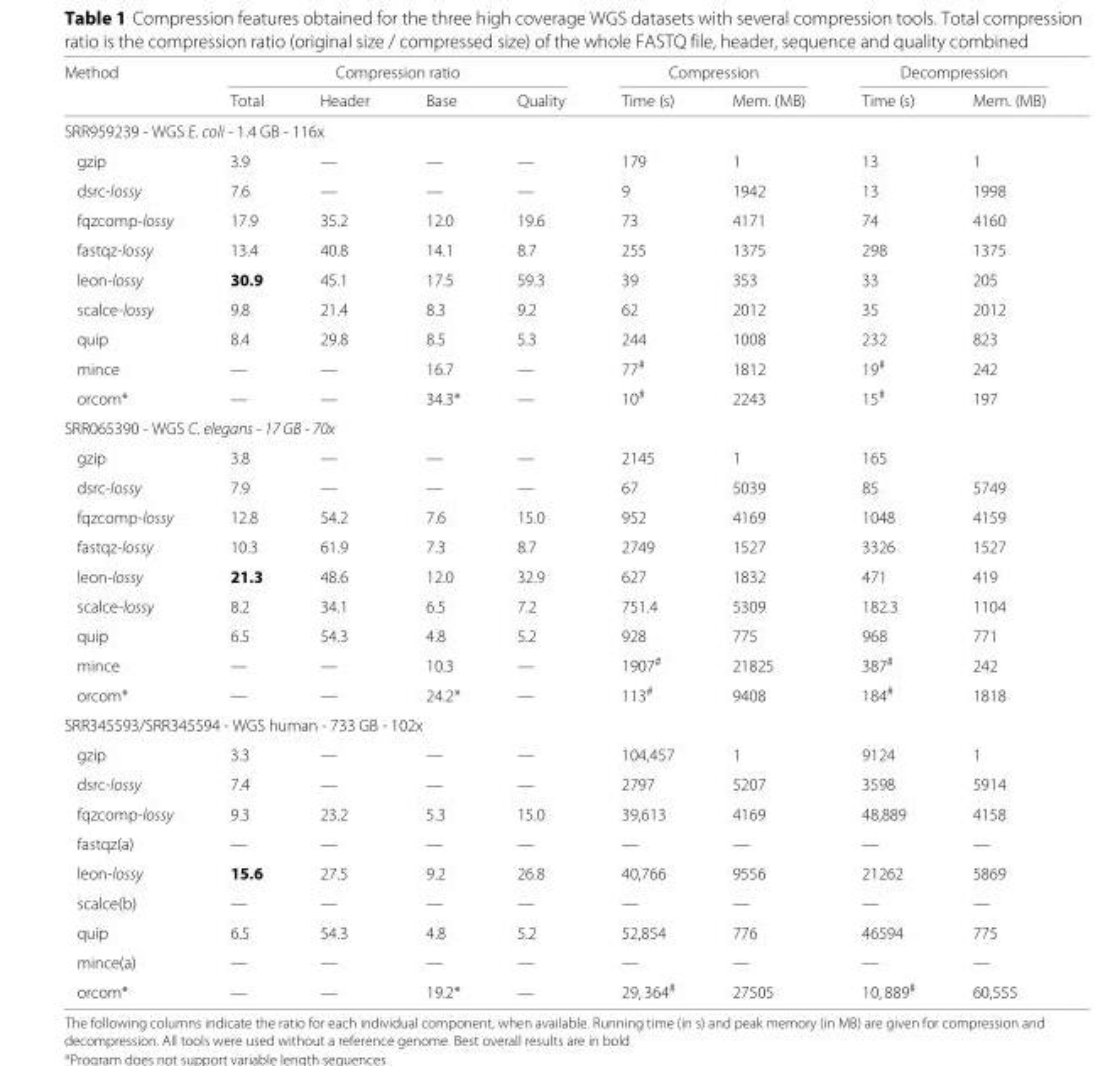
<table><thead><tr><td rowspan="2">Method</td><td colspan="4">Compression ratio</td><td colspan="2">Compression</td><td colspan="2">Decompression</td></tr><tr><td>Total</td><td>Header</td><td>Base</td><td>Quality</td><td>Time (s)</td><td>Mem. (MB)</td><td>Time (s)</td><td>Mem. (MB)</td></tr></thead><tbody><tr><td colspan="9">SRR959239 - WGS E. coli - 1.4 GB - 116x</td></tr><tr><td>gzip</td><td>3.9</td><td>—</td><td>—</td><td>—</td><td>179</td><td>1</td><td>13</td><td>1</td></tr><tr><td>dsrc-lossy</td><td>7.6</td><td>—</td><td>—</td><td>—</td><td>9</td><td>1942</td><td>13</td><td>1998</td></tr><tr><td>fqzcomp-lossy</td><td>17.9</td><td>35.2</td><td>12.0</td><td>19.6</td><td>73</td><td>4171</td><td>74</td><td>4160</td></tr><tr><td>fastqz-lossy</td><td>13.4</td><td>40.8</td><td>14.1</td><td>8.7</td><td>255</td><td>1375</td><td>298</td><td>1375</td></tr><tr><td>leon-lossy</td><td>30.9</td><td>45.1</td><td>17.5</td><td>59.3</td><td>39</td><td>353</td><td>33</td><td>205</td></tr><tr><td>scalce-lossy</td><td>9.8</td><td>21.4</td><td>8.3</td><td>9.2</td><td>62</td><td>2012</td><td>35</td><td>2012</td></tr><tr><td>quip</td><td>8.4</td><td>29.8</td><td>8.5</td><td>5.3</td><td>244</td><td>1008</td><td>232</td><td>823</td></tr><tr><td>mince</td><td>—</td><td>—</td><td>16.7</td><td>—</td><td>77<sup>#</sup></td><td>1812</td><td>19<sup>#</sup></td><td>242</td></tr><tr><td>orcom*</td><td>—</td><td>—</td><td>34.3*</td><td>—</td><td>10<sup>#</sup></td><td>2243</td><td>15<sup>#</sup></td><td>197</td></tr><tr><td colspan="9">SRR065390 - WGS C. elegans - 17 GB - 70x</td></tr><tr><td>gzip</td><td>3.8</td><td>—</td><td>—</td><td>—</td><td>2145</td><td>1</td><td>165</td><td></td></tr><tr><td>dsrc-lossy</td><td>7.9</td><td>—</td><td>—</td><td>—</td><td>67</td><td>5039</td><td>85</td><td>5749</td></tr><tr><td>fqzcomp-lossy</td><td>12.8</td><td>54.2</td><td>7.6</td><td>15.0</td><td>952</td><td>4169</td><td>1048</td><td>4159</td></tr><tr><td>fastqz-lossy</td><td>10.3</td><td>61.9</td><td>7.3</td><td>8.7</td><td>2749</td><td>1527</td><td>3326</td><td>1527</td></tr><tr><td>leon-lossy</td><td>21.3</td><td>48.6</td><td>12.0</td><td>32.9</td><td>627</td><td>1832</td><td>471</td><td>419</td></tr><tr><td>scalce-lossy</td><td>8.2</td><td>34.1</td><td>6.5</td><td>7.2</td><td>751.4</td><td>5309</td><td>182.3</td><td>1104</td></tr><tr><td>quip</td><td>6.5</td><td>54.3</td><td>4.8</td><td>5.2</td><td>928</td><td>775</td><td>968</td><td>771</td></tr><tr><td>mince</td><td>—</td><td>—</td><td>10.3</td><td>—</td><td>1907<sup>#</sup></td><td>21825</td><td>387<sup>#</sup></td><td>242</td></tr><tr><td>orcom*</td><td>—</td><td>—</td><td>24.2*</td><td>—</td><td>113<sup>#</sup></td><td>9408</td><td>184<sup>#</sup></td><td>1818</td></tr><tr><td colspan="9">SRR345593/SRR345594 - WGS human - 733 GB - 102x</td></tr><tr><td>gzip</td><td>3.3</td><td>—</td><td>—</td><td>—</td><td>104,457</td><td>1</td><td>9124</td><td>1</td></tr><tr><td>dsrc-lossy</td><td>7.4</td><td>—</td><td>—</td><td>—</td><td>2797</td><td>5207</td><td>3598</td><td>5914</td></tr><tr><td>fqzcomp-lossy</td><td>9.3</td><td>23.2</td><td>5.3</td><td>15.0</td><td>39,613</td><td>4169</td><td>48,889</td><td>4158</td></tr><tr><td>fastqz(a)</td><td>—</td><td>—</td><td>—</td><td>—</td><td>—</td><td>—</td><td>—</td><td>—</td></tr><tr><td>leon-lossy</td><td>15.6</td><td>27.5</td><td>9.2</td><td>26.8</td><td>40,766</td><td>9556</td><td>21262</td><td>5869</td></tr><tr><td>scalce(b)</td><td>—</td><td>—</td><td>—</td><td>—</td><td>—</td><td>—</td><td>—</td><td>—</td></tr><tr><td>quip</td><td>6.5</td><td>54.3</td><td>4.8</td><td>5.2</td><td>52,854</td><td>776</td><td>46594</td><td>775</td></tr><tr><td>mince(a)</td><td>—</td><td>—</td><td>—</td><td>—</td><td>—</td><td>—</td><td>—</td><td>—</td></tr><tr><td>orcom*</td><td>—</td><td>—</td><td>19.2*</td><td>—</td><td>29, 364<sup>#</sup></td><td>27505</td><td>10, 889<sup>#</sup></td><td>60,555</td></tr></tbody></table>